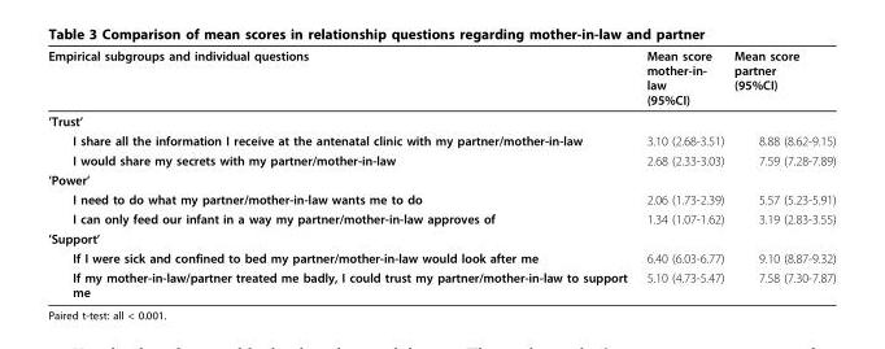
<table><thead><tr><td>Empirical subgroups and individual questions</td><td>Mean score mother-in- law (95%CI)</td><td>Mean score partner (95%CI)</td></tr></thead><tbody><tr><td colspan="3">’Trust’</td></tr><tr><td>I share all the information I receive at the antenatal clinic with my partner/mother-in-law</td><td>3.10 (2.68-3.51)</td><td>8.88 (8.62-9.15)</td></tr><tr><td>I would share my secrets with my partner/mother-in-law</td><td>2.68 (2.33-3.03)</td><td>7.59 (7.28-7.89)</td></tr><tr><td colspan="3">’Power’</td></tr><tr><td>I need to do what my partner/mother-in-law wants me to do</td><td>2.06 (1.73-2.39)</td><td>5.57 (5.23-5.91)</td></tr><tr><td>I can only feed our infant in a way my partner/mother-in-law approves of</td><td>1.34 (1.07-1.62)</td><td>3.19 (2.83-3.55)</td></tr><tr><td colspan="3">’Support’</td></tr><tr><td>If I were sick and confined to bed my partner/mother-in-law would look after me</td><td>6.40 (6.03-6.77)</td><td>9.10 (8.87-9.32)</td></tr><tr><td>If my mother-in-law/partner treated me badly, I could trust my partner/mother-in-law to support me</td><td>5.10 (4.73-5.47)</td><td>7.58 (7.30-7.87)</td></tr></tbody></table>